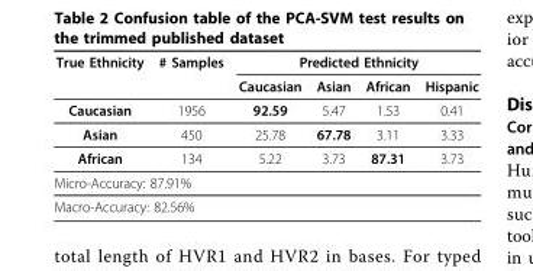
<table><thead><tr><td rowspan="2">True Ethnicity</td><td rowspan="2"># Samples</td><td colspan="4">Predicted Ethnicity</td></tr><tr><td>Caucasian</td><td>Asian</td><td>African</td><td>Hispanic</td></tr></thead><tbody><tr><td>Caucasian</td><td>1956</td><td>92.59</td><td>5.47</td><td>1.53</td><td>0.41</td></tr><tr><td>Asian</td><td>450</td><td>25.78</td><td>67.78</td><td>3.11</td><td>3.33</td></tr><tr><td>African</td><td>134</td><td>5.22</td><td>3.73</td><td>87.31</td><td>3.73</td></tr><tr><td colspan="6">Micro-Accuracy: 87.91%</td></tr><tr><td colspan="2">Macro-Accuracy: 82.56%</td><td></td><td></td><td></td><td></td></tr></tbody></table>